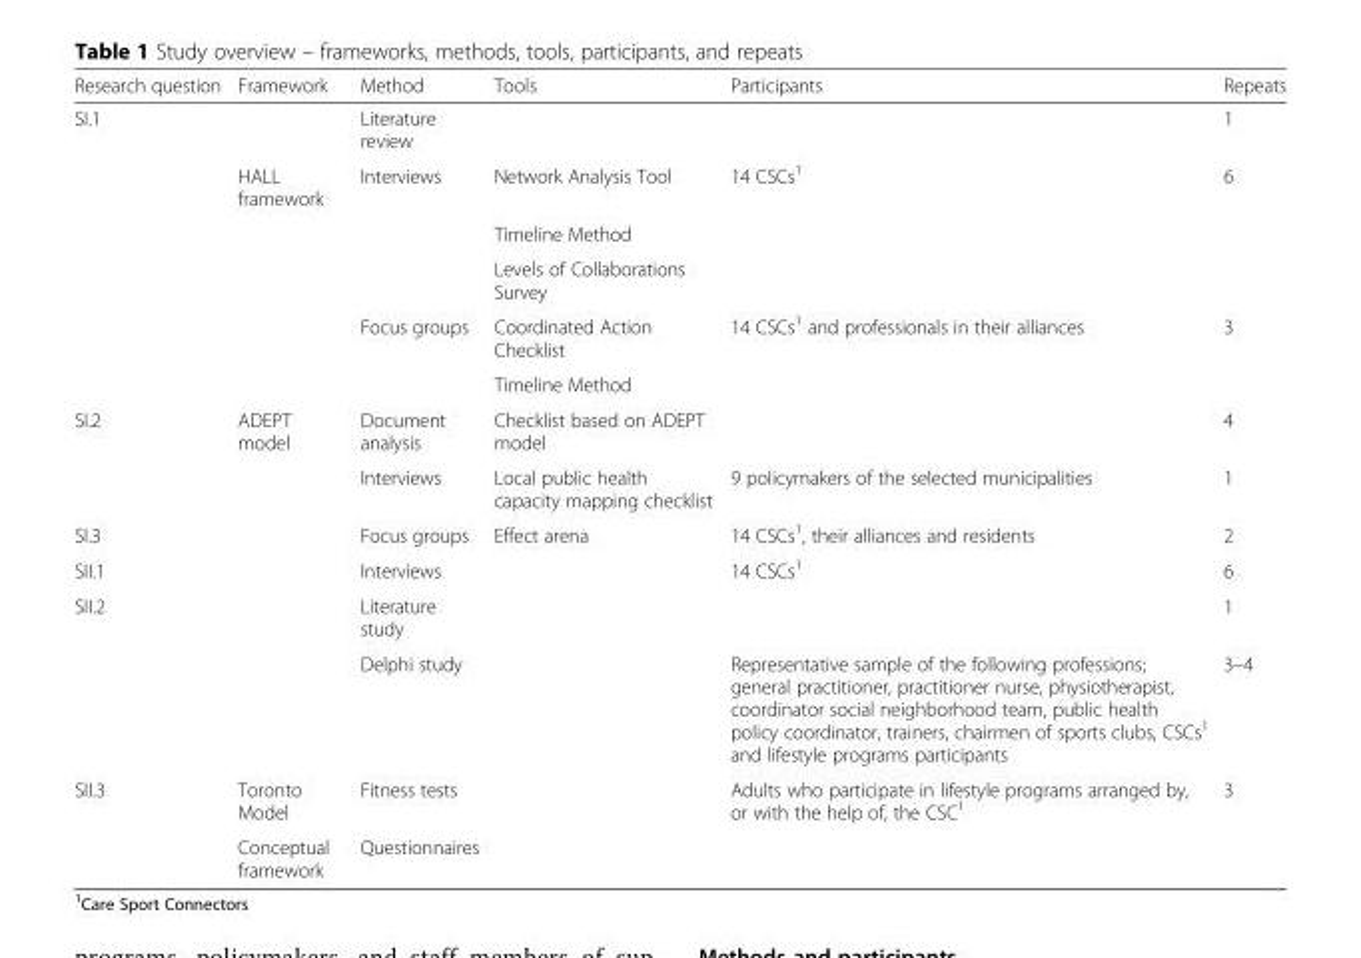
<table><thead><tr><td>Research question</td><td>Framework</td><td>Method</td><td>Tools</td><td>Participants</td><td>Repeats</td></tr></thead><tbody><tr><td rowspan="6">SI.1</td><td></td><td>Literature review</td><td></td><td></td><td>1</td></tr><tr><td>HALL framework</td><td>Interviews</td><td>Network Analysis Tool</td><td>14 CSCs<sup>1</sup></td><td>6</td></tr><tr><td></td><td></td><td>Timeline Method</td><td></td><td></td></tr><tr><td></td><td></td><td>Levels of Collaborations Survey</td><td></td><td></td></tr><tr><td></td><td>Focus groups</td><td>Coordinated Action Checklist</td><td>14 CSCs<sup>1</sup> and professionals in their alliances</td><td>3</td></tr><tr><td></td><td></td><td>Timeline Method</td><td></td><td></td></tr><tr><td rowspan="2">SI.2</td><td>ADEPT model</td><td>Document analysis</td><td>Checklist based on ADEPT model</td><td></td><td>4</td></tr><tr><td></td><td>Interviews</td><td>Local public health capacity mapping checklist</td><td>9 policymakers of the selected municipalities</td><td>1</td></tr><tr><td>SI.3</td><td></td><td>Focus groups</td><td>Effect arena</td><td>14 CSCs<sup>1</sup>, their alliances and residents</td><td>2</td></tr><tr><td>SII.1</td><td></td><td>Interviews</td><td></td><td>14 CSCs<sup>1</sup></td><td>6</td></tr><tr><td rowspan="2">SII.2</td><td></td><td>Literature study</td><td></td><td></td><td>1</td></tr><tr><td></td><td>Delphi study</td><td></td><td>Representative sample of the following professions; general practitioner, practitioner nurse, physiotherapist, coordinator social neighborhood team, public health policy coordinator, trainers, chairmen of sports clubs, CSCs<sup>1</sup> and lifestyle programs participants</td><td>3–4</td></tr><tr><td rowspan="2">SII.3</td><td>Toronto Model</td><td>Fitness tests</td><td rowspan="2"></td><td rowspan="2">Adults who participate in lifestyle programs arranged by, or with the help of, the CSC<sup>1</sup></td><td rowspan="2">3</td></tr><tr><td>Conceptual framework</td><td>Questionnaires</td></tr></tbody></table>